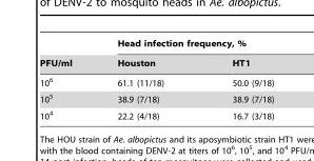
<table><thead><tr><td rowspan="2">PFU/ml</td><td colspan="2">Head infection frequency, %</td></tr><tr><td>Houston</td><td>HT1</td></tr></thead><tbody><tr><td>10<sup>6</sup></td><td>61.1 (11/18)</td><td>50.0 (9/18)</td></tr><tr><td>10<sup>5</sup></td><td>38.9 (7/18)</td><td>38.9 (7/18)</td></tr><tr><td>10<sup>4</sup></td><td>22.2 (4/18)</td><td>16.7 (3/18)</td></tr></tbody></table>